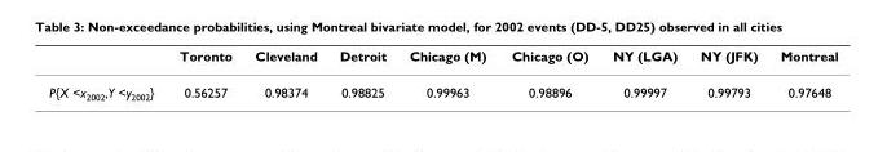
<table><thead><tr><td></td><td>Toronto</td><td>Cleveland</td><td>Detroit</td><td>Chicago (M)</td><td>Chicago (O)</td><td>NY (LGA)</td><td>NY (JFK)</td><td>Montreal</td></tr></thead><tbody><tr><td>P{X &lt;x<sub>2002</sub>,Y &lt;y<sub>2002</sub>}</td><td>0.56257</td><td>0.98374</td><td>0.98825</td><td>0.99963</td><td>0.98896</td><td>0.99997</td><td>0.99793</td><td>0.97648</td></tr></tbody></table>